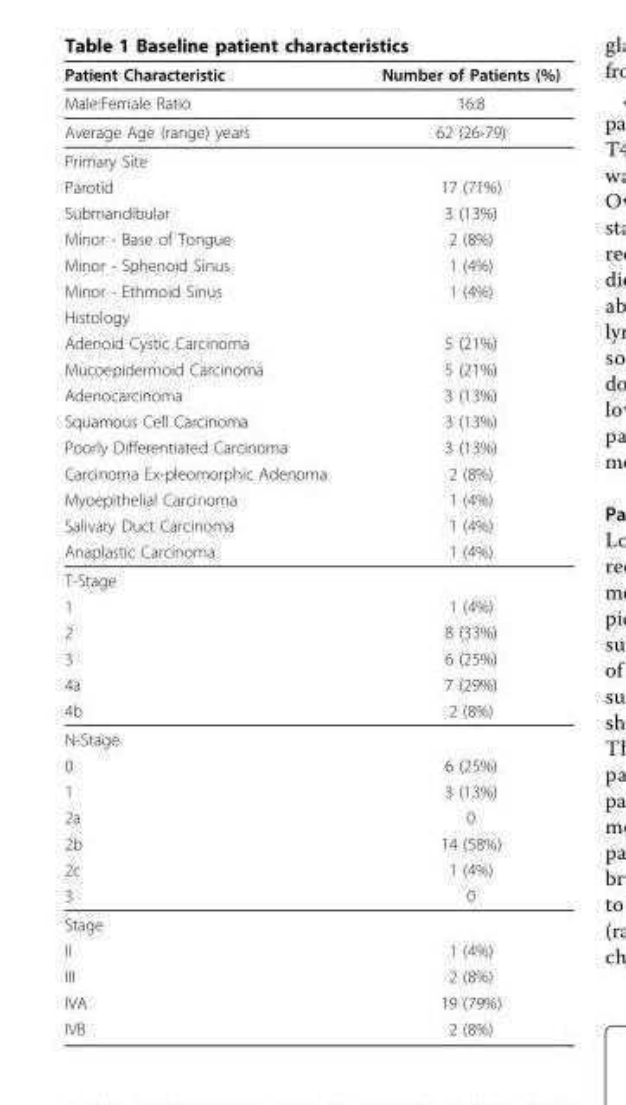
<table><thead><tr><td>Patient Characteristic</td><td>Number of Patients (%)</td></tr></thead><tbody><tr><td>Male:Female Ratio</td><td>16:8</td></tr><tr><td>Average Age (range) years</td><td>62 (26-79)</td></tr><tr><td colspan="2">Primary Site</td></tr><tr><td>Parotid</td><td>17 (71%)</td></tr><tr><td>Submandibular</td><td>3 (13%)</td></tr><tr><td>Minor - Base of Tongue</td><td>2 (8%)</td></tr><tr><td>Minor - Sphenoid Sinus</td><td>1 (4%)</td></tr><tr><td>Minor - Ethmoid Sinus</td><td>1 (4%)</td></tr><tr><td colspan="2">Histology</td></tr><tr><td>Adenoid Cystic Carcinoma</td><td>5 (21%)</td></tr><tr><td>Mucoepidermoid Carcinoma</td><td>5 (21%)</td></tr><tr><td>Adenocarcinoma</td><td>3 (13%)</td></tr><tr><td>Squamous Cell Carcinoma</td><td>3 (13%)</td></tr><tr><td>Poorly Differentiated Carcinoma</td><td>3 (13%)</td></tr><tr><td>Carcinoma Ex-pleomorphic Adenoma</td><td>2 (8%)</td></tr><tr><td>Myoepithelial Carcinoma</td><td>1 (4%)</td></tr><tr><td>Salivary Duct Carcinoma</td><td>1 (4%)</td></tr><tr><td>Anaplastic Carcinoma</td><td>1 (4%)</td></tr><tr><td colspan="2">T-Stage</td></tr><tr><td>1</td><td>1 (4%)</td></tr><tr><td>2</td><td>8 (33%)</td></tr><tr><td>3</td><td>6 (25%)</td></tr><tr><td>4a</td><td>7 (29%)</td></tr><tr><td>4b</td><td>2 (8%)</td></tr><tr><td colspan="2">N-Stage</td></tr><tr><td>0</td><td>6 (25%)</td></tr><tr><td>1</td><td>3 (13%)</td></tr><tr><td>2a</td><td>0</td></tr><tr><td>2b</td><td>14 (58%)</td></tr><tr><td>2c</td><td>1 (4%)</td></tr><tr><td>3</td><td>0</td></tr><tr><td colspan="2">Stage</td></tr><tr><td>II</td><td>1 (4%)</td></tr><tr><td>III</td><td>2 (8%)</td></tr><tr><td>IVA</td><td>19 (79%)</td></tr><tr><td>IVB</td><td>2 (8%)</td></tr></tbody></table>